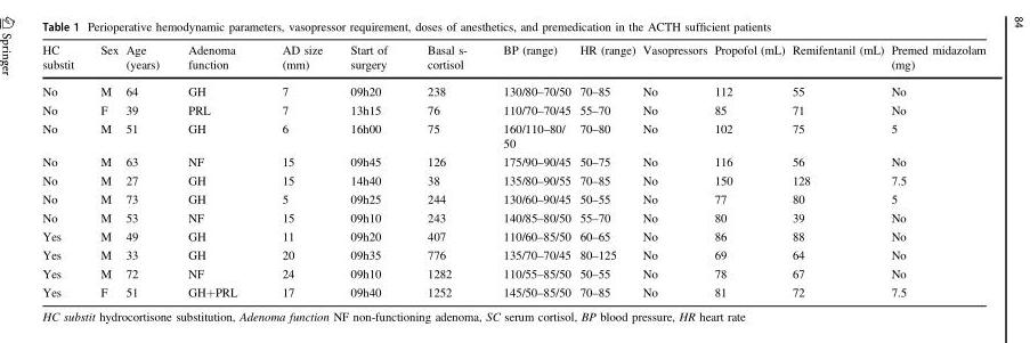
<table><thead><tr><td>HC substit</td><td>Sex</td><td>Age (years)</td><td>Adenoma function</td><td>AD size (mm)</td><td>Start of surgery</td><td>Basal s- cortisol</td><td>BP (range)</td><td>HR (range)</td><td>Vasopressors</td><td>Propofol (mL)</td><td>Remifentanil (mL)</td><td>Premed midazolam (mg)</td></tr></thead><tbody><tr><td>No</td><td>M</td><td>64</td><td>GH</td><td>7</td><td>09h20</td><td>238</td><td>130/80–70/50</td><td>70–85</td><td>No</td><td>112</td><td>55</td><td>No</td></tr><tr><td>No</td><td>F</td><td>39</td><td>PRL</td><td>7</td><td>13h15</td><td>76</td><td>110/70–70/45</td><td>55–70</td><td>No</td><td>85</td><td>71</td><td>No</td></tr><tr><td>No</td><td>M</td><td>51</td><td>GH</td><td>6</td><td>16h00</td><td>75</td><td>160/110–80/ 50</td><td>70–80</td><td>No</td><td>102</td><td>75</td><td>5</td></tr><tr><td>No</td><td>M</td><td>63</td><td>NF</td><td>15</td><td>09h45</td><td>126</td><td>175/90–90/45</td><td>50–75</td><td>No</td><td>116</td><td>56</td><td>No</td></tr><tr><td>No</td><td>M</td><td>27</td><td>GH</td><td>15</td><td>14h40</td><td>38</td><td>135/80–90/55</td><td>70–85</td><td>No</td><td>150</td><td>128</td><td>7.5</td></tr><tr><td>No</td><td>M</td><td>73</td><td>GH</td><td>5</td><td>09h25</td><td>244</td><td>130/60–90/45</td><td>50–55</td><td>No</td><td>77</td><td>80</td><td>5</td></tr><tr><td>No</td><td>M</td><td>53</td><td>NF</td><td>15</td><td>09h10</td><td>243</td><td>140/85–80/50</td><td>55–70</td><td>No</td><td>80</td><td>39</td><td>No</td></tr><tr><td>Yes</td><td>M</td><td>49</td><td>GH</td><td>11</td><td>09h20</td><td>407</td><td>110/60–85/50</td><td>60–65</td><td>No</td><td>86</td><td>88</td><td>No</td></tr><tr><td>Yes</td><td>M</td><td>33</td><td>GH</td><td>20</td><td>09h35</td><td>776</td><td>135/70–70/45</td><td>80–125</td><td>No</td><td>69</td><td>64</td><td>No</td></tr><tr><td>Yes</td><td>M</td><td>72</td><td>NF</td><td>24</td><td>09h10</td><td>1282</td><td>110/55–85/50</td><td>50–55</td><td>No</td><td>78</td><td>67</td><td>No</td></tr><tr><td>Yes</td><td>F</td><td>51</td><td>GH+PRL</td><td>17</td><td>09h40</td><td>1252</td><td>145/50–85/50</td><td>70–85</td><td>No</td><td>81</td><td>72</td><td>7.5</td></tr></tbody></table>